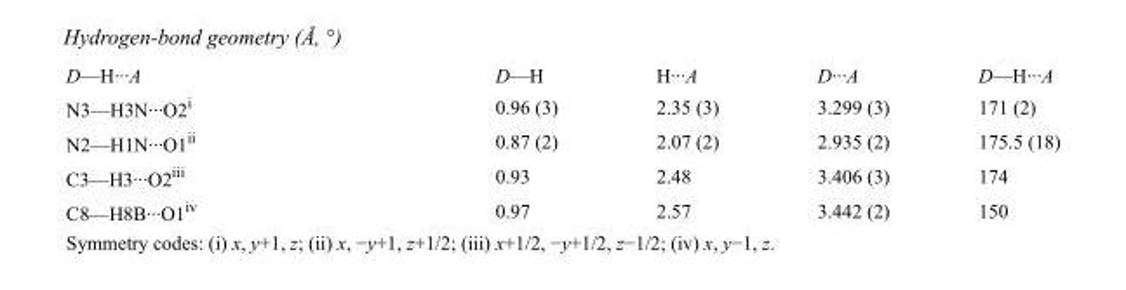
<table><tbody><tr><td>D—H···A</td><td>D—H</td><td>H···A</td><td>D···A</td><td>D—H···A</td></tr><tr><td>N3—H3N···O2<sup>i</sup></td><td>0.96 (3)</td><td>2.35 (3)</td><td>3.299 (3)</td><td>171 (2)</td></tr><tr><td>N2—H1N···O1<sup>ii</sup></td><td>0.87 (2)</td><td>2.07 (2)</td><td>2.935 (2)</td><td>175.5 (18)</td></tr><tr><td>C3—H3···O2<sup>iii</sup></td><td>0.93</td><td>2.48</td><td>3.406 (3)</td><td>174</td></tr><tr><td>C8—H8B···O1<sup>iv</sup></td><td>0.97</td><td>2.57</td><td>3.442 (2)</td><td>150</td></tr></tbody></table>